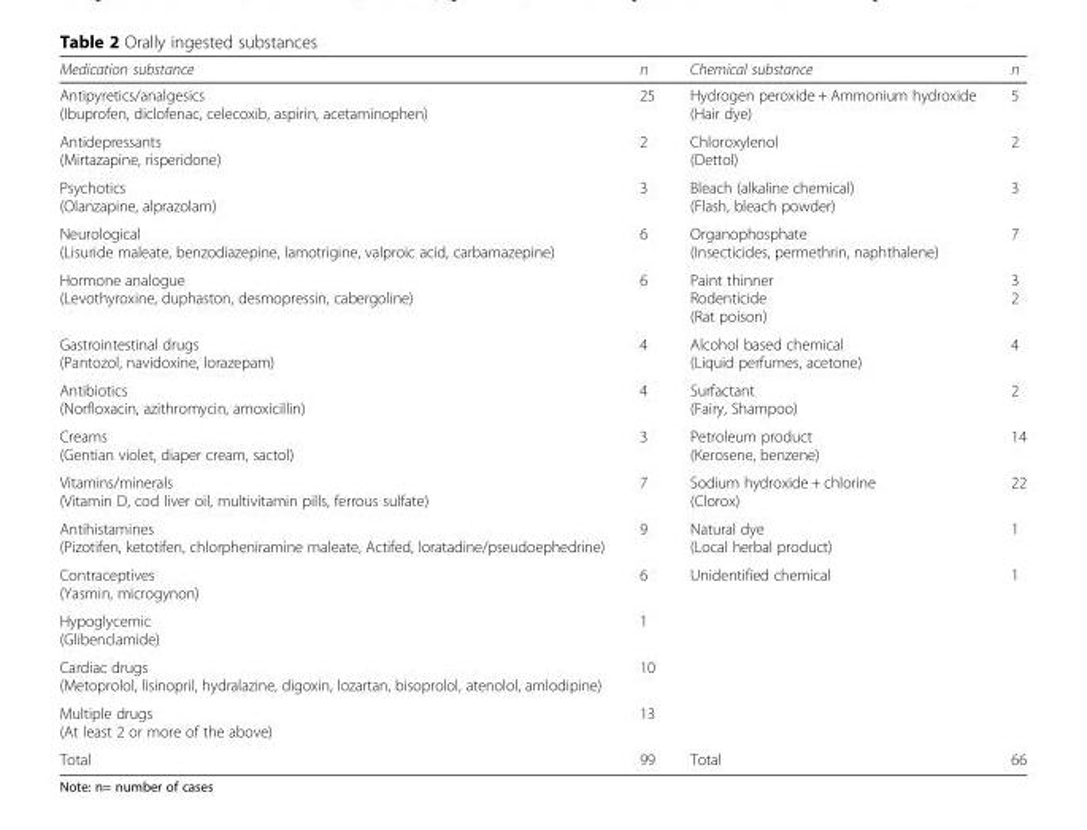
<table><thead><tr><td>Medication substance</td><td>n</td><td>Chemical substance</td><td>n</td></tr></thead><tbody><tr><td>Antipyretics/analgesics (Ibuprofen, diclofenac, celecoxib, aspirin, acetaminophen)</td><td>25</td><td>Hydrogen peroxide + Ammonium hydroxide (Hair dye)</td><td>5</td></tr><tr><td>Antidepressants (Mirtazapine, risperidone)</td><td>2</td><td>Chloroxylenol (Dettol)</td><td>2</td></tr><tr><td>Psychotics (Olanzapine, alprazolam)</td><td>3</td><td>Bleach (alkaline chemical) (Flash, bleach powder)</td><td>3</td></tr><tr><td>Neurological (Lisuride maleate, benzodiazepine, lamotrigine, valproic acid, carbamazepine)</td><td>6</td><td>Organophosphate (Insecticides, permethrin, naphthalene)</td><td>7</td></tr><tr><td>Hormone analogue (Levothyroxine, duphaston, desmopressin, cabergoline)</td><td>6</td><td>Paint thinner Rodenticide (Rat poison)</td><td>3 2</td></tr><tr><td>Gastrointestinal drugs (Pantozol, navidoxine, lorazepam)</td><td>4</td><td>Alcohol based chemical (Liquid perfumes, acetone)</td><td>4</td></tr><tr><td>Antibiotics (Norfloxacin, azithromycin, amoxicillin)</td><td>4</td><td>Surfactant (Fairy, Shampoo)</td><td>2</td></tr><tr><td>Creams (Gentian violet, diaper cream, sactol)</td><td>3</td><td>Petroleum product (Kerosene, benzene)</td><td>14</td></tr><tr><td>Vitamins/minerals (Vitamin D, cod liver oil, multivitamin pills, ferrous sulfate)</td><td>7</td><td>Sodium hydroxide + chlorine (Clorox)</td><td>22</td></tr><tr><td>Antihistamines (Pizotifen, ketotifen, chlorpheniramine maleate, Actifed, loratadine/pseudoephedrine)</td><td>9</td><td>Natural dye (Local herbal product)</td><td>1</td></tr><tr><td>Contraceptives (Yasmin, microgynon)</td><td>6</td><td>Unidentified chemical</td><td>1</td></tr><tr><td>Hypoglycemic (Glibenclamide)</td><td>1</td><td rowspan="3"></td><td rowspan="3"></td></tr><tr><td>Cardiac drugs (Metoprolol, lisinopril, hydralazine, digoxin, lozartan, bisoprolol, atenolol, amlodipine)</td><td>10</td></tr><tr><td>Multiple drugs (At least 2 or more of the above)</td><td>13</td></tr><tr><td>Total</td><td>99</td><td>Total</td><td>66</td></tr></tbody></table>